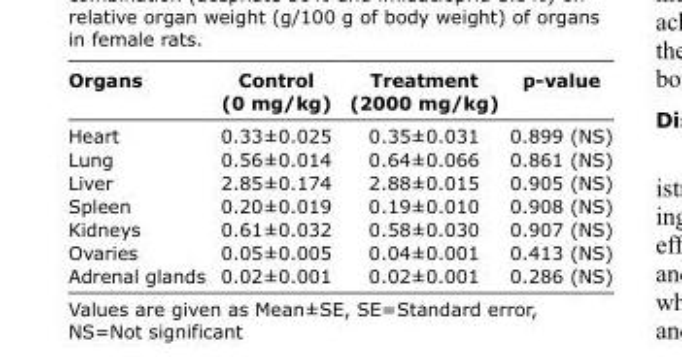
<table><thead><tr><td>Organs</td><td>Control (0 mg/kg)</td><td>Treatment (2000 mg/kg)</td><td>p-value</td></tr></thead><tbody><tr><td>Heart</td><td>0.33±0.025</td><td>0.35±0.031</td><td>0.899 (NS)</td></tr><tr><td>Lung</td><td>0.56±0.014</td><td>0.64±0.066</td><td>0.861 (NS)</td></tr><tr><td>Liver</td><td>2.85±0.174</td><td>2.88±0.015</td><td>0.905 (NS)</td></tr><tr><td>Spleen</td><td>0.20±0.019</td><td>0.19±0.010</td><td>0.908 (NS)</td></tr><tr><td>Kidneys</td><td>0.61±0.032</td><td>0.58±0.030</td><td>0.907 (NS)</td></tr><tr><td>Ovaries</td><td>0.05±0.005</td><td>0.04±0.001</td><td>0.413 (NS)</td></tr><tr><td>Adrenal glands</td><td>0.02±0.001</td><td>0.02±0.001</td><td>0.286 (NS)</td></tr></tbody></table>